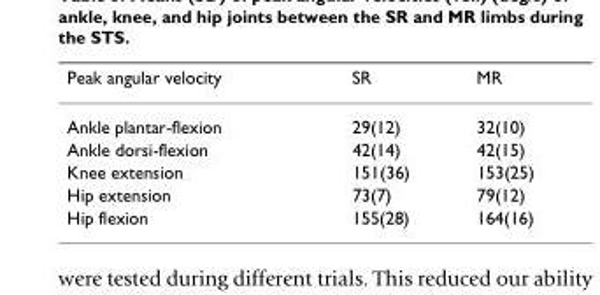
<table><thead><tr><td>Peak angular velocity</td><td>SR</td><td>MR</td></tr></thead><tbody><tr><td>Ankle plantar-flexion</td><td>29(12)</td><td>32(10)</td></tr><tr><td>Ankle dorsi-flexion</td><td>42(14)</td><td>42(15)</td></tr><tr><td>Knee extension</td><td>151(36)</td><td>153(25)</td></tr><tr><td>Hip extension</td><td>73(7)</td><td>79(12)</td></tr><tr><td>Hip flexion</td><td>155(28)</td><td>164(16)</td></tr></tbody></table>